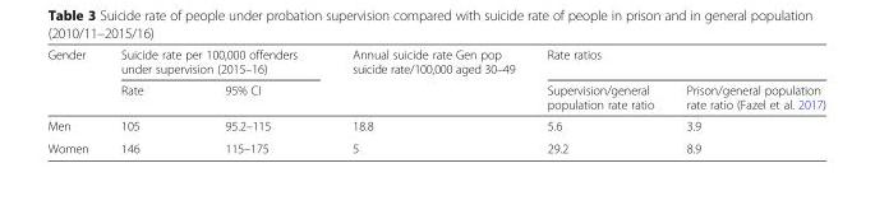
<table><thead><tr><td rowspan="2">Gender</td><td colspan="2">Suicide rate per 100,000 offenders under supervision (2015–16)</td><td rowspan="2">Annual suicide rate Gen pop suicide rate/100,000 aged 30–49</td><td colspan="2">Rate ratios</td></tr><tr><td>Rate</td><td>95% CI</td><td>Supervision/general population rate ratio</td><td>Prison/general population rate ratio (Fazel et al. 2017)</td></tr></thead><tbody><tr><td>Men</td><td>105</td><td>95.2–115</td><td>18.8</td><td>5.6</td><td>3.9</td></tr><tr><td>Women</td><td>146</td><td>115–175</td><td>5</td><td>29.2</td><td>8.9</td></tr></tbody></table>